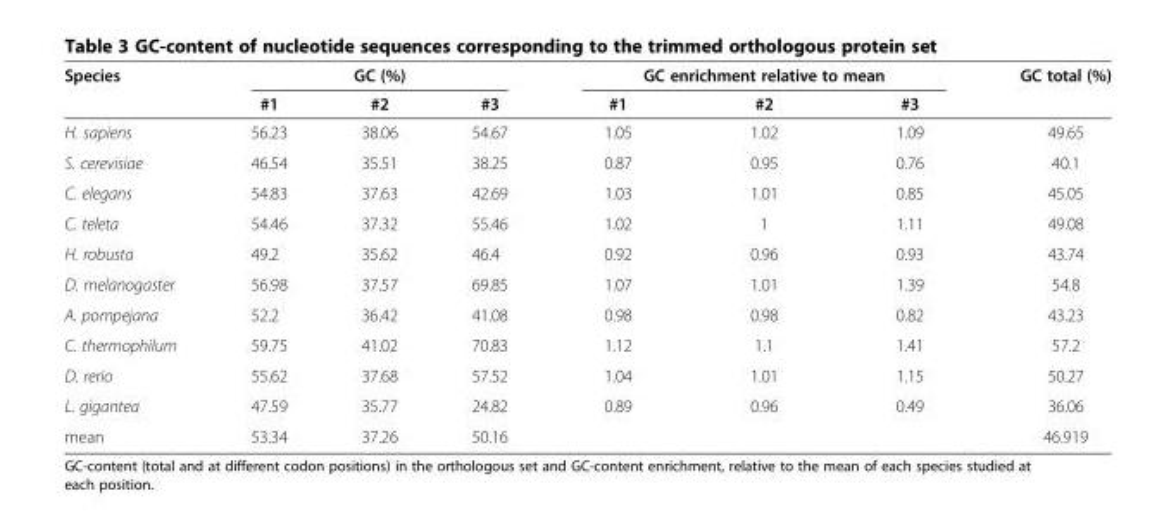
<table><thead><tr><td rowspan="2">Species</td><td colspan="3">GC (%)</td><td colspan="3">GC enrichment relative to mean</td><td rowspan="2">GC total (%)</td></tr><tr><td>#1</td><td>#2</td><td>#3</td><td>#1</td><td>#2</td><td>#3</td></tr></thead><tbody><tr><td>H. sapiens</td><td>56.23</td><td>38.06</td><td>54.67</td><td>1.05</td><td>1.02</td><td>1.09</td><td>49.65</td></tr><tr><td>S. cerevisiae</td><td>46.54</td><td>35.51</td><td>38.25</td><td>0.87</td><td>0.95</td><td>0.76</td><td>40.1</td></tr><tr><td>C. elegans</td><td>54.83</td><td>37.63</td><td>42.69</td><td>1.03</td><td>1.01</td><td>0.85</td><td>45.05</td></tr><tr><td>C. teleta</td><td>54.46</td><td>37.32</td><td>55.46</td><td>1.02</td><td>1</td><td>1.11</td><td>49.08</td></tr><tr><td>H. robusta</td><td>49.2</td><td>35.62</td><td>46.4</td><td>0.92</td><td>0.96</td><td>0.93</td><td>43.74</td></tr><tr><td>D. melanogaster</td><td>56.98</td><td>37.57</td><td>69.85</td><td>1.07</td><td>1.01</td><td>1.39</td><td>54.8</td></tr><tr><td>A. pompejana</td><td>52.2</td><td>36.42</td><td>41.08</td><td>0.98</td><td>0.98</td><td>0.82</td><td>43.23</td></tr><tr><td>C. thermophilum</td><td>59.75</td><td>41.02</td><td>70.83</td><td>1.12</td><td>1.1</td><td>1.41</td><td>57.2</td></tr><tr><td>D. rerio</td><td>55.62</td><td>37.68</td><td>57.52</td><td>1.04</td><td>1.01</td><td>1.15</td><td>50.27</td></tr><tr><td>L. gigantea</td><td>47.59</td><td>35.77</td><td>24.82</td><td>0.89</td><td>0.96</td><td>0.49</td><td>36.06</td></tr><tr><td>mean</td><td>53.34</td><td>37.26</td><td>50.16</td><td></td><td></td><td></td><td>46.919</td></tr></tbody></table>